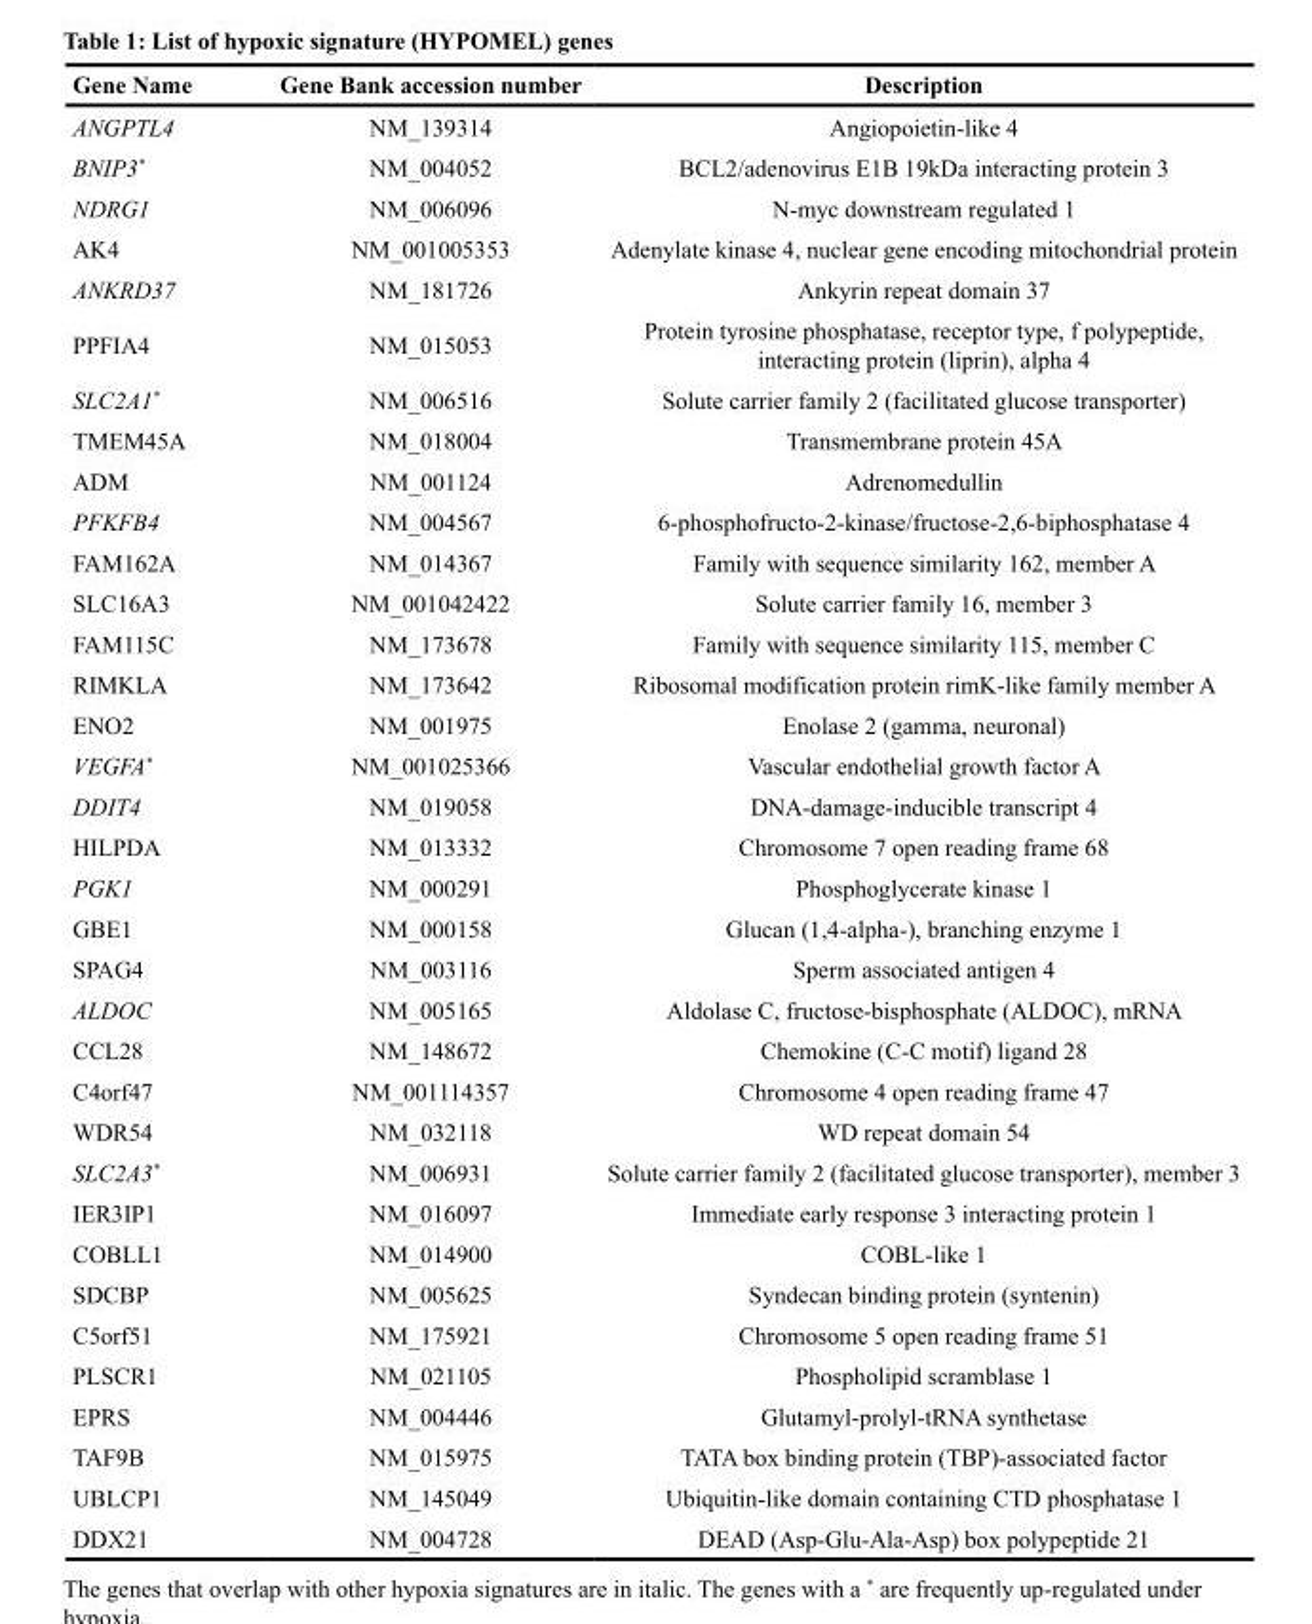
<table><thead><tr><td>Gene Name</td><td>Gene Bank accession number</td><td>Description</td></tr></thead><tbody><tr><td>ANGPTL4</td><td>NM_139314</td><td>Angiopoietin-like 4</td></tr><tr><td>BNIP3*</td><td>NM_004052</td><td>BCL2/adenovirus E1B 19kDa interacting protein 3</td></tr><tr><td>NDRG1</td><td>NM_006096</td><td>N-myc downstream regulated 1</td></tr><tr><td>AK4</td><td>NM_001005353</td><td>Adenylate kinase 4, nuclear gene encoding mitochondrial protein</td></tr><tr><td>ANKRD37</td><td>NM_181726</td><td>Ankyrin repeat domain 37</td></tr><tr><td>PPFIA4</td><td>NM_015053</td><td>Protein tyrosine phosphatase, receptor type, f polypeptide, interacting protein (liprin), alpha 4</td></tr><tr><td>SLC2A1*</td><td>NM_006516</td><td>Solute carrier family 2 (facilitated glucose transporter)</td></tr><tr><td>TMEM45A</td><td>NM_018004</td><td>Transmembrane protein 45A</td></tr><tr><td>ADM</td><td>NM_001124</td><td>Adrenomedullin</td></tr><tr><td>PFKFB4</td><td>NM_004567</td><td>6-phosphofructo-2-kinase/fructose-2,6-biphosphatase 4</td></tr><tr><td>FAM162A</td><td>NM_014367</td><td>Family with sequence similarity 162, member A</td></tr><tr><td>SLC16A3</td><td>NM_001042422</td><td>Solute carrier family 16, member 3</td></tr><tr><td>FAM115C</td><td>NM_173678</td><td>Family with sequence similarity 115, member C</td></tr><tr><td>RIMKLA</td><td>NM_173642</td><td>Ribosomal modification protein rimK-like family member A</td></tr><tr><td>ENO2</td><td>NM_001975</td><td>Enolase 2 (gamma, neuronal)</td></tr><tr><td>VEGFA*</td><td>NM_001025366</td><td>Vascular endothelial growth factor A</td></tr><tr><td>DDIT4</td><td>NM_019058</td><td>DNA-damage-inducible transcript 4</td></tr><tr><td>HILPDA</td><td>NM_013332</td><td>Chromosome 7 open reading frame 68</td></tr><tr><td>PGK1</td><td>NM_000291</td><td>Phosphoglycerate kinase 1</td></tr><tr><td>GBE1</td><td>NM_000158</td><td>Glucan (1,4-alpha-), branching enzyme 1</td></tr><tr><td>SPAG4</td><td>NM_003116</td><td>Sperm associated antigen 4</td></tr><tr><td>ALDOC</td><td>NM_005165</td><td>Aldolase C, fructose-bisphosphate (ALDOC), mRNA</td></tr><tr><td>CCL28</td><td>NM_148672</td><td>Chemokine (C-C motif) ligand 28</td></tr><tr><td>C4orf47</td><td>NM_001114357</td><td>Chromosome 4 open reading frame 47</td></tr><tr><td>WDR54</td><td>NM_032118</td><td>WD repeat domain 54</td></tr><tr><td>SLC2A3*</td><td>NM_006931</td><td>Solute carrier family 2 (facilitated glucose transporter), member 3</td></tr><tr><td>IER3IP1</td><td>NM_016097</td><td>Immediate early response 3 interacting protein 1</td></tr><tr><td>COBLL1</td><td>NM_014900</td><td>COBL-like 1</td></tr><tr><td>SDCBP</td><td>NM_005625</td><td>Syndecan binding protein (syntenin)</td></tr><tr><td>C5orf51</td><td>NM_175921</td><td>Chromosome 5 open reading frame 51</td></tr><tr><td>PLSCR1</td><td>NM_021105</td><td>Phospholipid scramblase 1</td></tr><tr><td>EPRS</td><td>NM_004446</td><td>Glutamyl-prolyl-tRNA synthetase</td></tr><tr><td>TAF9B</td><td>NM_015975</td><td>TATA box binding protein (TBP)-associated factor</td></tr><tr><td>UBLCP1</td><td>NM_145049</td><td>Ubiquitin-like domain containing CTD phosphatase 1</td></tr><tr><td>DDX21</td><td>NM_004728</td><td>DEAD (Asp-Glu-Ala-Asp) box polypeptide 21</td></tr></tbody></table>